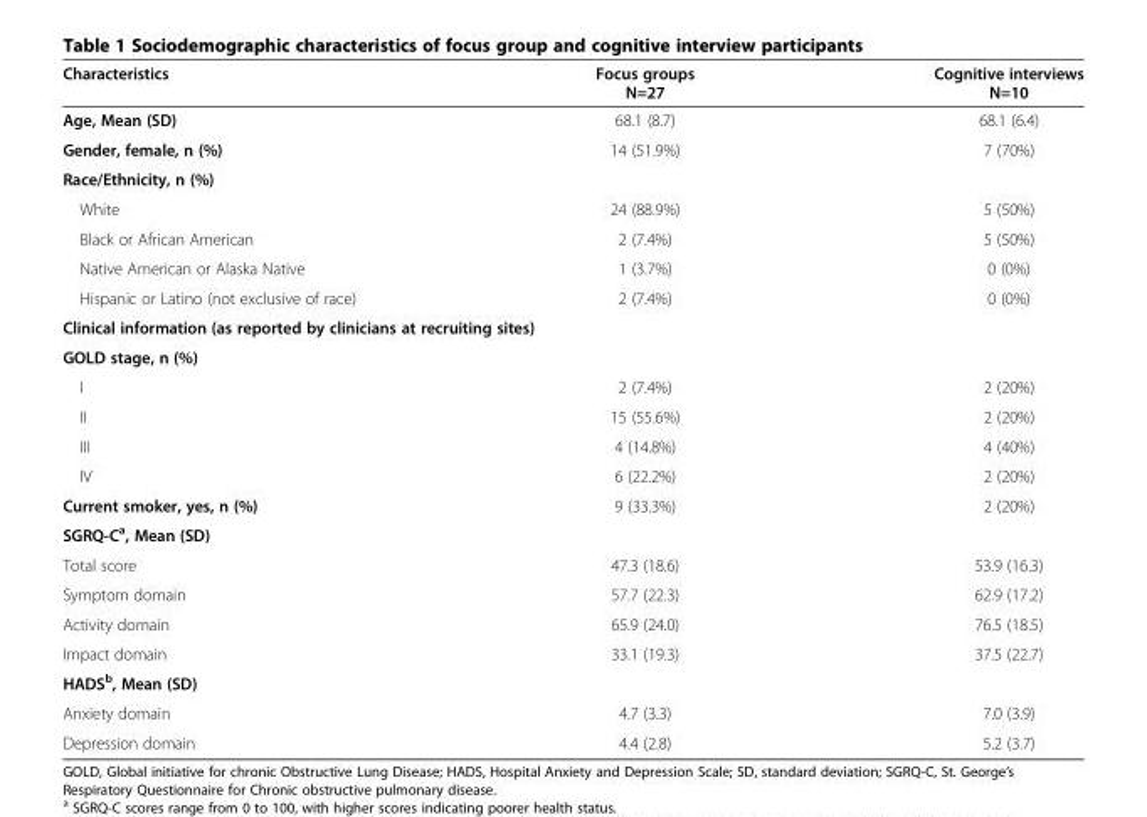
<table><thead><tr><td>Characteristics</td><td>Focus groups N=27</td><td>Cognitive interviews N=10</td></tr></thead><tbody><tr><td>Age, Mean (SD)</td><td>68.1 (8.7)</td><td>68.1 (6.4)</td></tr><tr><td>Gender, female, n (%)</td><td>14 (51.9%)</td><td>7 (70%)</td></tr><tr><td colspan="3">Race/Ethnicity, n (%)</td></tr><tr><td>White</td><td>24 (88.9%)</td><td>5 (50%)</td></tr><tr><td>Black or African American</td><td>2 (7.4%)</td><td>5 (50%)</td></tr><tr><td>Native American or Alaska Native</td><td>1 (3.7%)</td><td>0 (0%)</td></tr><tr><td>Hispanic or Latino (not exclusive of race)</td><td>2 (7.4%)</td><td>0 (0%)</td></tr><tr><td colspan="3">Clinical information (as reported by clinicians at recruiting sites)</td></tr><tr><td colspan="3">GOLD stage, n (%)</td></tr><tr><td>I</td><td>2 (7.4%)</td><td>2 (20%)</td></tr><tr><td>II</td><td>15 (55.6%)</td><td>2 (20%)</td></tr><tr><td>III</td><td>4 (14.8%)</td><td>4 (40%)</td></tr><tr><td>IV</td><td>6 (22.2%)</td><td>2 (20%)</td></tr><tr><td>Current smoker, yes, n (%)</td><td>9 (33.3%)</td><td>2 (20%)</td></tr><tr><td colspan="3">SGRQ-C<sup>a</sup>, Mean (SD)</td></tr><tr><td>Total score</td><td>47.3 (18.6)</td><td>53.9 (16.3)</td></tr><tr><td>Symptom domain</td><td>57.7 (22.3)</td><td>62.9 (17.2)</td></tr><tr><td>Activity domain</td><td>65.9 (24.0)</td><td>76.5 (18.5)</td></tr><tr><td>Impact domain</td><td>33.1 (19.3)</td><td>37.5 (22.7)</td></tr><tr><td colspan="3">HADS<sup>b</sup>, Mean (SD)</td></tr><tr><td>Anxiety domain</td><td>4.7 (3.3)</td><td>7.0 (3.9)</td></tr><tr><td>Depression domain</td><td>4.4 (2.8)</td><td>5.2 (3.7)</td></tr></tbody></table>